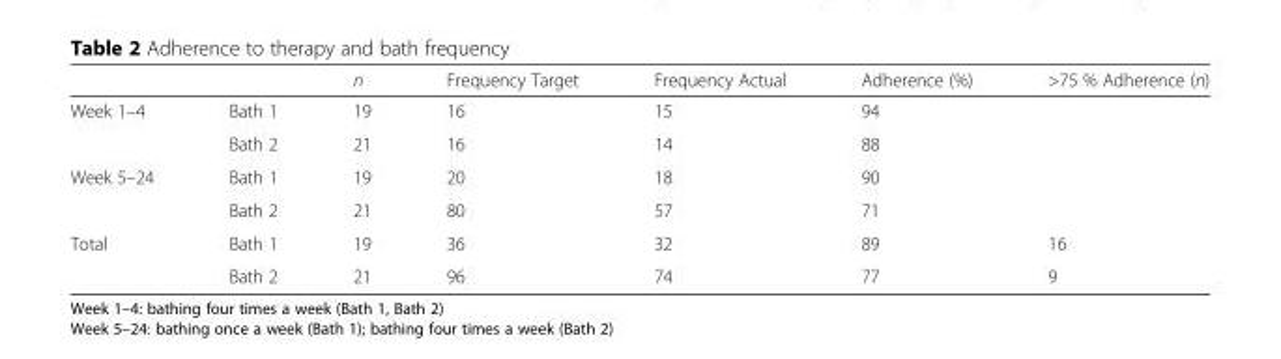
<table><thead><tr><td></td><td></td><td>n</td><td>Frequency Target</td><td>Frequency Actual</td><td>Adherence (%)</td><td>&gt;75 % Adherence (n)</td></tr></thead><tbody><tr><td rowspan="2">Week 1–4</td><td>Bath 1</td><td>19</td><td>16</td><td>15</td><td>94</td><td></td></tr><tr><td>Bath 2</td><td>21</td><td>16</td><td>14</td><td>88</td><td></td></tr><tr><td rowspan="2">Week 5–24</td><td>Bath 1</td><td>19</td><td>20</td><td>18</td><td>90</td><td></td></tr><tr><td>Bath 2</td><td>21</td><td>80</td><td>57</td><td>71</td><td></td></tr><tr><td rowspan="2">Total</td><td>Bath 1</td><td>19</td><td>36</td><td>32</td><td>89</td><td>16</td></tr><tr><td>Bath 2</td><td>21</td><td>96</td><td>74</td><td>77</td><td>9</td></tr></tbody></table>